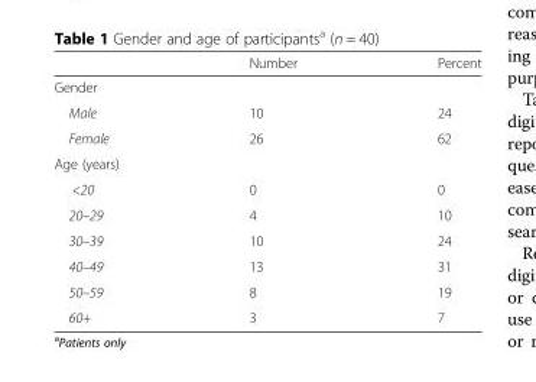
<table><thead><tr><td></td><td>Number</td><td>Percent</td></tr></thead><tbody><tr><td colspan="3">Gender</td></tr><tr><td>Male</td><td>10</td><td>24</td></tr><tr><td>Female</td><td>26</td><td>62</td></tr><tr><td colspan="3">Age (years)</td></tr><tr><td>&lt;20</td><td>0</td><td>0</td></tr><tr><td>20–29</td><td>4</td><td>10</td></tr><tr><td>30–39</td><td>10</td><td>24</td></tr><tr><td>40–49</td><td>13</td><td>31</td></tr><tr><td>50–59</td><td>8</td><td>19</td></tr><tr><td>60+</td><td>3</td><td>7</td></tr></tbody></table>